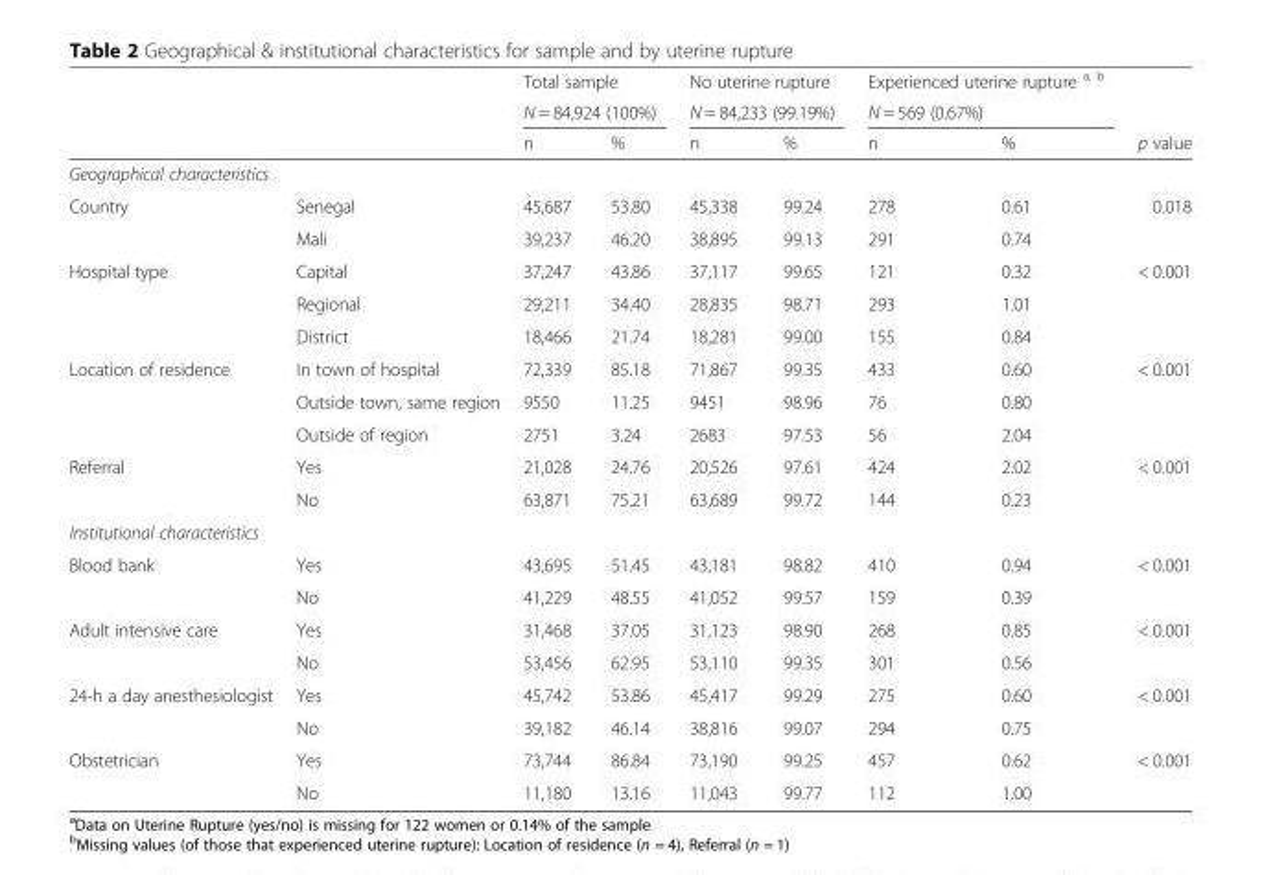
<table><thead><tr><td rowspan="3"></td><td rowspan="3"></td><td rowspan="2" colspan="2">Total sample N = 84,924 (100%)</td><td rowspan="2" colspan="2">No uterine rupture N = 84,233 (99.19%)</td><td rowspan="2" colspan="2">Experienced uterine rupture <sup>a, b</sup> N = 569 (0.67%)</td><td rowspan="3">p value</td></tr><tr></tr><tr><td>n</td><td>%</td><td>n</td><td>%</td><td>n</td><td>%</td></tr></thead><tbody><tr><td colspan="9">Geographical characteristics</td></tr><tr><td rowspan="2">Country</td><td>Senegal</td><td>45,687</td><td>53.80</td><td>45,338</td><td>99.24</td><td>278</td><td>0.61</td><td>0.018</td></tr><tr><td>Mali</td><td>39,237</td><td>46.20</td><td>38,895</td><td>99.13</td><td>291</td><td>0.74</td><td></td></tr><tr><td rowspan="3">Hospital type</td><td>Capital</td><td>37,247</td><td>43.86</td><td>37,117</td><td>99.65</td><td>121</td><td>0.32</td><td>&lt; 0.001</td></tr><tr><td>Regional</td><td>29,211</td><td>34.40</td><td>28,835</td><td>98.71</td><td>293</td><td>1.01</td><td></td></tr><tr><td>District</td><td>18,466</td><td>21.74</td><td>18,281</td><td>99.00</td><td>155</td><td>0.84</td><td></td></tr><tr><td rowspan="3">Location of residence</td><td>In town of hospital</td><td>72,339</td><td>85.18</td><td>71,867</td><td>99.35</td><td>433</td><td>0.60</td><td>&lt; 0.001</td></tr><tr><td>Outside town, same region</td><td>9550</td><td>11.25</td><td>9451</td><td>98.96</td><td>76</td><td>0.80</td><td></td></tr><tr><td>Outside of region</td><td>2751</td><td>3.24</td><td>2683</td><td>97.53</td><td>56</td><td>2.04</td><td></td></tr><tr><td rowspan="2">Referral</td><td>Yes</td><td>21,028</td><td>24.76</td><td>20,526</td><td>97.61</td><td>424</td><td>2.02</td><td>&lt; 0.001</td></tr><tr><td>No</td><td>63,871</td><td>75.21</td><td>63,689</td><td>99.72</td><td>144</td><td>0.23</td><td></td></tr><tr><td colspan="9">Institutional characteristics</td></tr><tr><td rowspan="2">Blood bank</td><td>Yes</td><td>43,695</td><td>51.45</td><td>43,181</td><td>98.82</td><td>410</td><td>0.94</td><td>&lt; 0.001</td></tr><tr><td>No</td><td>41,229</td><td>48.55</td><td>41,052</td><td>99.57</td><td>159</td><td>0.39</td><td></td></tr><tr><td rowspan="2">Adult intensive care</td><td>Yes</td><td>31,468</td><td>37.05</td><td>31,123</td><td>98.90</td><td>268</td><td>0.85</td><td>&lt; 0.001</td></tr><tr><td>No</td><td>53,456</td><td>62.95</td><td>53,110</td><td>99.35</td><td>301</td><td>0.56</td><td></td></tr><tr><td rowspan="2">24-h a day anesthesiologist</td><td>Yes</td><td>45,742</td><td>53.86</td><td>45,417</td><td>99.29</td><td>275</td><td>0.60</td><td>&lt; 0.001</td></tr><tr><td>No</td><td>39,182</td><td>46.14</td><td>38,816</td><td>99.07</td><td>294</td><td>0.75</td><td></td></tr><tr><td rowspan="2">Obstetrician</td><td>Yes</td><td>73,744</td><td>86.84</td><td>73,190</td><td>99.25</td><td>457</td><td>0.62</td><td>&lt; 0.001</td></tr><tr><td>No</td><td>11,180</td><td>13.16</td><td>11,043</td><td>99.77</td><td>112</td><td>1.00</td><td></td></tr></tbody></table>